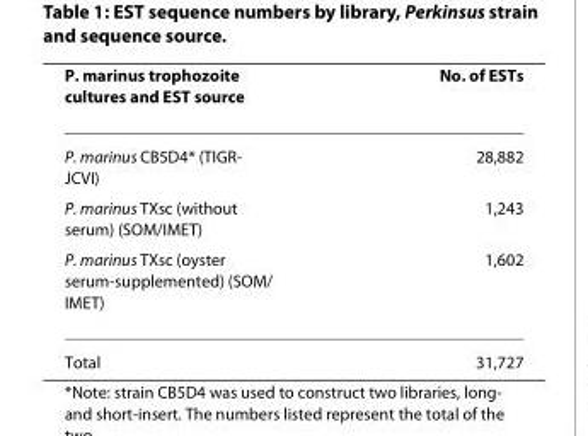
<table><thead><tr><td>P. marinus trophozoite cultures and EST source</td><td>No. of ESTs</td></tr></thead><tbody><tr><td>P. marinus CB5D4* (TIGR- JCVI)</td><td>28,882</td></tr><tr><td>P. marinus TXsc (without serum) (SOM/IMET)</td><td>1,243</td></tr><tr><td>P. marinus TXsc (oyster serum-supplemented) (SOM/ IMET)</td><td>1,602</td></tr><tr><td>Total</td><td>31,727</td></tr></tbody></table>